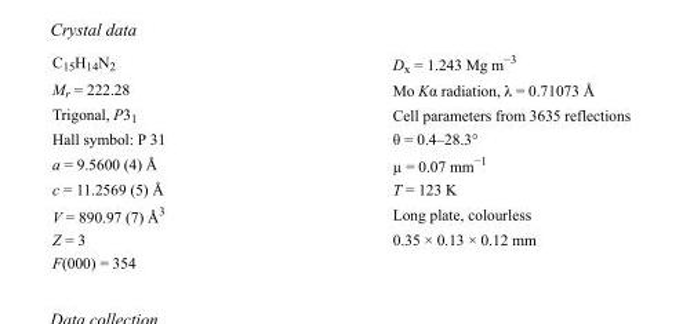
<table><tbody><tr><td>C<sub>15</sub>H<sub>14</sub>N<sub>2</sub></td><td>D<sub>x</sub> = 1.243 Mg m<sup>−3</sup></td></tr><tr><td>M<sub>r</sub> = 222.28</td><td>Mo Kα radiation, λ = 0.71073 Å</td></tr><tr><td>Trigonal, P3<sub>1</sub></td><td>Cell parameters from 3635 reflections</td></tr><tr><td>Hall symbol: P 31</td><td>θ = 0.4–28.3°</td></tr><tr><td>a = 9.5600 (4) Å</td><td>µ = 0.07 mm<sup>−1</sup></td></tr><tr><td>c = 11.2569 (5) Å</td><td>T = 123 K</td></tr><tr><td>V = 890.97 (7) Å<sup>3</sup></td><td>Long plate, colourless</td></tr><tr><td>Z = 3</td><td>0.35 × 0.13 × 0.12 mm</td></tr><tr><td>F(000) = 354</td><td></td></tr></tbody></table>